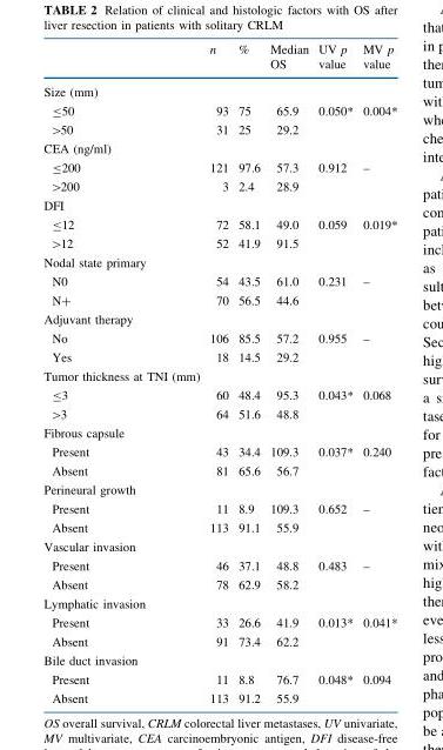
<table><thead><tr><td></td><td>n</td><td>%</td><td>Median OS</td><td>UV p value</td><td>MV p value</td></tr></thead><tbody><tr><td colspan="6">Size (mm)</td></tr><tr><td>≤50</td><td>93</td><td>75</td><td>65.9</td><td>0.050*</td><td>0.004*</td></tr><tr><td>&gt;50</td><td>31</td><td>25</td><td>29.2</td><td></td><td></td></tr><tr><td colspan="6">CEA (ng/ml)</td></tr><tr><td>≤200</td><td>121</td><td>97.6</td><td>57.3</td><td>0.912</td><td>–</td></tr><tr><td>&gt;200</td><td>3</td><td>2.4</td><td>28.9</td><td></td><td></td></tr><tr><td colspan="6">DFI</td></tr><tr><td>≤12</td><td>72</td><td>58.1</td><td>49.0</td><td>0.059</td><td>0.019*</td></tr><tr><td>&gt;12</td><td>52</td><td>41.9</td><td>91.5</td><td></td><td></td></tr><tr><td colspan="6">Nodal state primary</td></tr><tr><td>N0</td><td>54</td><td>43.5</td><td>61.0</td><td>0.231</td><td>–</td></tr><tr><td>N+</td><td>70</td><td>56.5</td><td>44.6</td><td></td><td></td></tr><tr><td colspan="6">Adjuvant therapy</td></tr><tr><td>No</td><td>106</td><td>85.5</td><td>57.2</td><td>0.955</td><td>–</td></tr><tr><td>Yes</td><td>18</td><td>14.5</td><td>29.2</td><td></td><td></td></tr><tr><td colspan="6">Tumor thickness at TNI (mm)</td></tr><tr><td>≤3</td><td>60</td><td>48.4</td><td>95.3</td><td>0.043*</td><td>0.068</td></tr><tr><td>&gt;3</td><td>64</td><td>51.6</td><td>48.8</td><td></td><td></td></tr><tr><td colspan="6">Fibrous capsule</td></tr><tr><td>Present</td><td>43</td><td>34.4</td><td>109.3</td><td>0.037*</td><td>0.240</td></tr><tr><td>Absent</td><td>81</td><td>65.6</td><td>56.7</td><td></td><td></td></tr><tr><td colspan="6">Perineural growth</td></tr><tr><td>Present</td><td>11</td><td>8.9</td><td>109.3</td><td>0.652</td><td>–</td></tr><tr><td>Absent</td><td>113</td><td>91.1</td><td>55.9</td><td></td><td></td></tr><tr><td colspan="6">Vascular invasion</td></tr><tr><td>Present</td><td>46</td><td>37.1</td><td>48.8</td><td>0.483</td><td>–</td></tr><tr><td>Absent</td><td>78</td><td>62.9</td><td>58.2</td><td></td><td></td></tr><tr><td colspan="6">Lymphatic invasion</td></tr><tr><td>Present</td><td>33</td><td>26.6</td><td>41.9</td><td>0.013*</td><td>0.041*</td></tr><tr><td>Absent</td><td>91</td><td>73.4</td><td>62.2</td><td></td><td></td></tr><tr><td colspan="6">Bile duct invasion</td></tr><tr><td>Present</td><td>11</td><td>8.8</td><td>76.7</td><td>0.048*</td><td>0.094</td></tr><tr><td>Absent</td><td>113</td><td>91.2</td><td>55.9</td><td></td><td></td></tr></tbody></table>